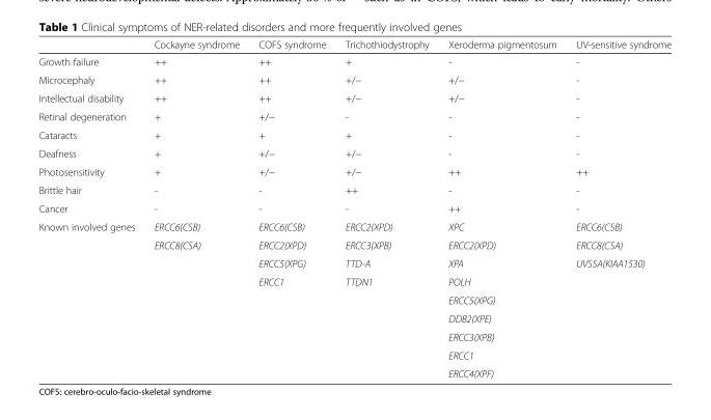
<table><thead><tr><td></td><td>Cockayne syndrome</td><td>COFS syndrome</td><td>Trichothiodystrophy</td><td>Xeroderma pigmentosum</td><td>UV-sensitive syndrome</td></tr></thead><tbody><tr><td>Growth failure</td><td>++</td><td>++</td><td>+</td><td>-</td><td>-</td></tr><tr><td>Microcephaly</td><td>++</td><td>++</td><td>+/−</td><td>+/−</td><td>-</td></tr><tr><td>Intellectual disability</td><td>++</td><td>++</td><td>+/−</td><td>+/−</td><td>-</td></tr><tr><td>Retinal degeneration</td><td>+</td><td>+/−</td><td>-</td><td>-</td><td>-</td></tr><tr><td>Cataracts</td><td>+</td><td>+</td><td>+</td><td>-</td><td>-</td></tr><tr><td>Deafness</td><td>+</td><td>+/−</td><td>+/−</td><td>-</td><td>-</td></tr><tr><td>Photosensitivity</td><td>+</td><td>+/−</td><td>+/−</td><td>++</td><td>++</td></tr><tr><td>Brittle hair</td><td>-</td><td>-</td><td>++</td><td>-</td><td>-</td></tr><tr><td>Cancer</td><td>-</td><td>-</td><td>-</td><td>++</td><td>-</td></tr><tr><td rowspan="9">Known involved genes</td><td>ERCC6(CSB)</td><td>ERCC6(CSB)</td><td>ERCC2(XPD)</td><td>XPC</td><td>ERCC6(CSB)</td></tr><tr><td>ERCC8(CSA)</td><td>ERCC2(XPD)</td><td>ERCC3(XPB)</td><td>ERCC2(XPD)</td><td>ERCC8(CSA)</td></tr><tr><td></td><td>ERCC5(XPG)</td><td>TTD-A</td><td>XPA</td><td>UVSSA(KIAA1530)</td></tr><tr><td></td><td>ERCC1</td><td>TTDN1</td><td>POLH</td><td></td></tr><tr><td></td><td></td><td></td><td>ERCC5(XPG)</td><td></td></tr><tr><td></td><td></td><td></td><td>DDB2(XPE)</td><td></td></tr><tr><td></td><td></td><td></td><td>ERCC3(XPB)</td><td></td></tr><tr><td></td><td></td><td></td><td>ERCC1</td><td></td></tr><tr><td></td><td></td><td></td><td>ERCC4(XPF)</td><td></td></tr></tbody></table>